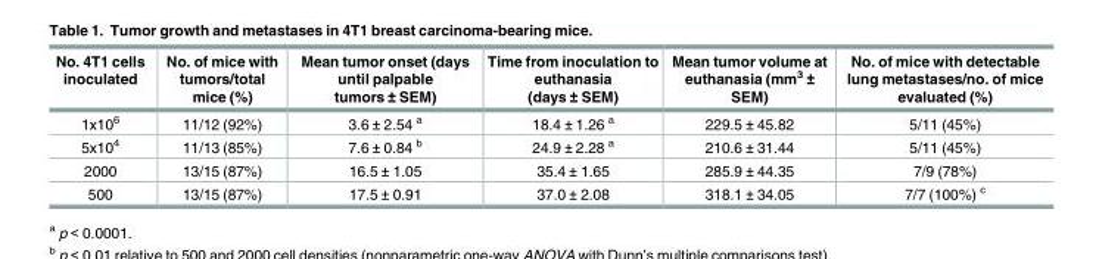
<table><thead><tr><td>No. 4T1 cells inoculated</td><td>No. of mice with tumors/total mice (%)</td><td>Mean tumor onset (days until palpable tumors ± SEM)</td><td>Time from inoculation to euthanasia (days ± SEM)</td><td>Mean tumor volume at euthanasia (mm<sup>3</sup> ± SEM)</td><td>No. of mice with detectable lung metastases/no. of mice evaluated (%)</td></tr></thead><tbody><tr><td>1x10<sup>6</sup></td><td>11/12 (92%)</td><td>3.6 ± 2.54 <sup>a</sup></td><td>18.4 ± 1.26 <sup>a</sup></td><td>229.5 ± 45.82</td><td>5/11 (45%)</td></tr><tr><td>5x10<sup>4</sup></td><td>11/13 (85%)</td><td>7.6 ± 0.84 <sup>b</sup></td><td>24.9 ± 2.28 <sup>a</sup></td><td>210.6 ± 31.44</td><td>5/11 (45%)</td></tr><tr><td>2000</td><td>13/15 (87%)</td><td>16.5 ± 1.05</td><td>35.4 ± 1.65</td><td>285.9 ± 44.35</td><td>7/9 (78%)</td></tr><tr><td>500</td><td>13/15 (87%)</td><td>17.5 ± 0.91</td><td>37.0 ± 2.08</td><td>318.1 ± 34.05</td><td>7/7 (100%) <sup>c</sup></td></tr></tbody></table>